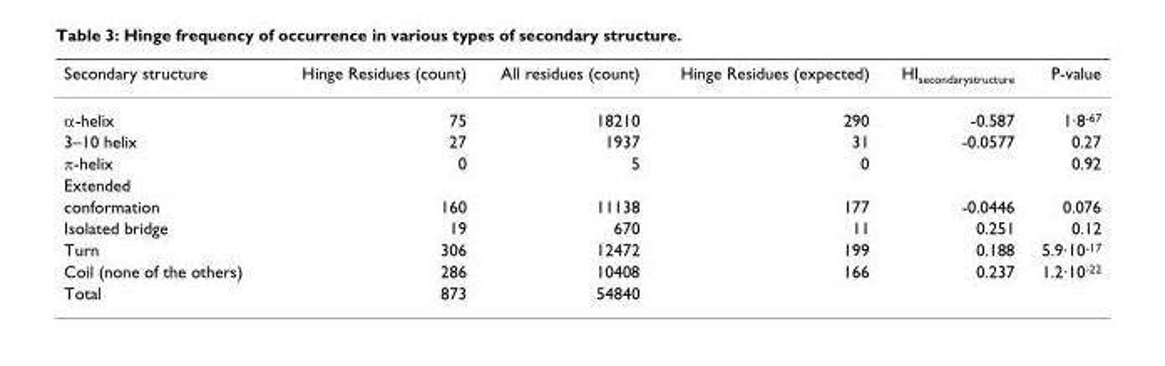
<table><thead><tr><td>Secondary structure</td><td>Hinge Residues (count)</td><td>All residues (count)</td><td>Hinge Residues (expected)</td><td>HI<sub>secondarystructure</sub></td><td>P-value</td></tr></thead><tbody><tr><td>α-helix</td><td>75</td><td>18210</td><td>290</td><td>-0.587</td><td>1·8<sup>-67</sup></td></tr><tr><td>3–10 helix</td><td>27</td><td>1937</td><td>31</td><td>-0.0577</td><td>0.27</td></tr><tr><td>π-helix</td><td>0</td><td>5</td><td>0</td><td></td><td>0.92</td></tr><tr><td colspan="6">Extended</td></tr><tr><td>conformation</td><td>160</td><td>11138</td><td>177</td><td>-0.0446</td><td>0.076</td></tr><tr><td>Isolated bridge</td><td>19</td><td>670</td><td>11</td><td>0.251</td><td>0.12</td></tr><tr><td>Turn</td><td>306</td><td>12472</td><td>199</td><td>0.188</td><td>5.9·10<sup>-17</sup></td></tr><tr><td>Coil (none of the others)</td><td>286</td><td>10408</td><td>166</td><td>0.237</td><td>1.2·10<sup>-22</sup></td></tr><tr><td>Total</td><td>873</td><td>54840</td><td></td><td></td><td></td></tr></tbody></table>